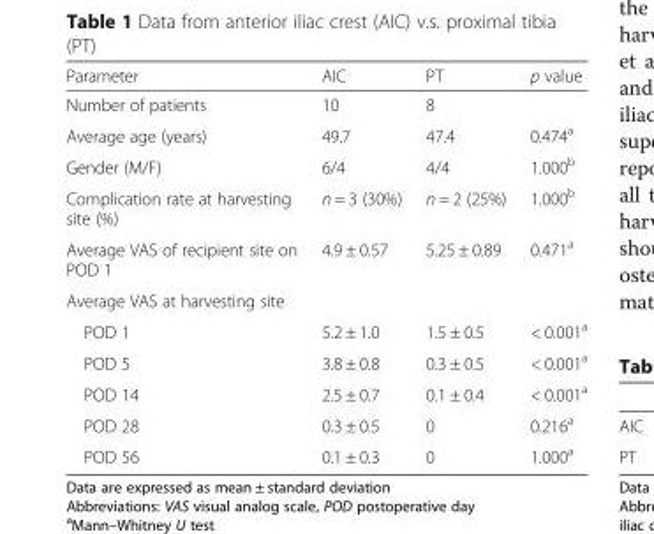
<table><thead><tr><td>Parameter</td><td>AIC</td><td>PT</td><td>p value</td></tr></thead><tbody><tr><td>Number of patients</td><td>10</td><td>8</td><td></td></tr><tr><td>Average age (years)</td><td>49.7</td><td>47.4</td><td>0.474<sup>a</sup></td></tr><tr><td>Gender (M/F)</td><td>6/4</td><td>4/4</td><td>1.000<sup>b</sup></td></tr><tr><td>Complication rate at harvesting site (%)</td><td>n = 3 (30%)</td><td>n = 2 (25%)</td><td>1.000<sup>b</sup></td></tr><tr><td>Average VAS of recipient site on POD 1</td><td>4.9 ± 0.57</td><td>5.25 ± 0.89</td><td>0.471<sup>a</sup></td></tr><tr><td colspan="4">Average VAS at harvesting site</td></tr><tr><td>POD 1</td><td>5.2 ± 1.0</td><td>1.5 ± 0.5</td><td>&lt; 0.001<sup>a</sup></td></tr><tr><td>POD 5</td><td>3.8 ± 0.8</td><td>0.3 ± 0.5</td><td>&lt; 0.001<sup>a</sup></td></tr><tr><td>POD 14</td><td>2.5 ± 0.7</td><td>0.1 ± 0.4</td><td>&lt; 0.001<sup>a</sup></td></tr><tr><td>POD 28</td><td>0.3 ± 0.5</td><td>0</td><td>0.216<sup>a</sup></td></tr><tr><td>POD 56</td><td>0.1 ± 0.3</td><td>0</td><td>1.000<sup>a</sup></td></tr></tbody></table>